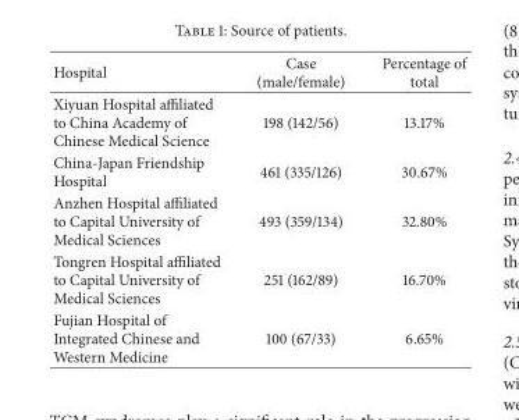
<table><thead><tr><td>Hospital</td><td>Case (male/female)</td><td>Percentage of total</td></tr></thead><tbody><tr><td>Xiyuan Hospital affiliated to China Academy of Chinese Medical Science</td><td>198 (142/56)</td><td>13.17%</td></tr><tr><td>China-Japan Friendship Hospital</td><td>461 (335/126)</td><td>30.67%</td></tr><tr><td>Anzhen Hospital affiliated to Capital University of Medical Sciences</td><td>493 (359/134)</td><td>32.80%</td></tr><tr><td>Tongren Hospital affiliated to Capital University of Medical Sciences</td><td>251 (162/89)</td><td>16.70%</td></tr><tr><td>Fujian Hospital of Integrated Chinese and Western Medicine</td><td>100 (67/33)</td><td>6.65%</td></tr></tbody></table>